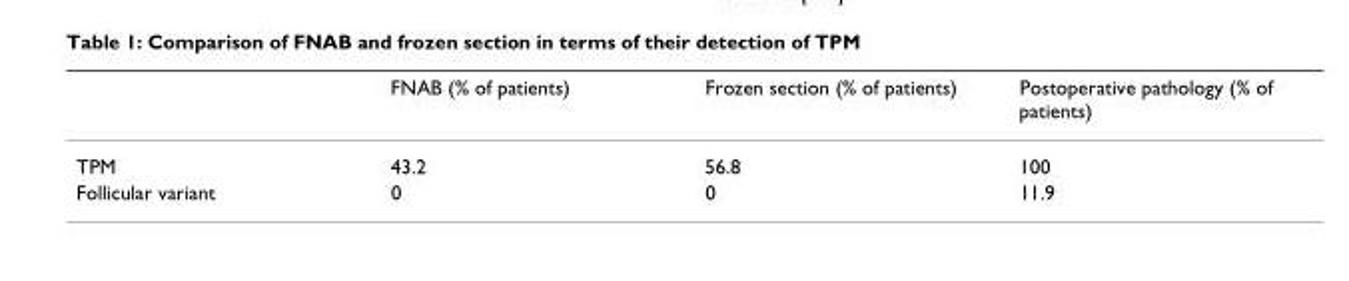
<table><thead><tr><td></td><td>FNAB (% of patients)</td><td>Frozen section (% of patients)</td><td>Postoperative pathology (% of patients)</td></tr></thead><tbody><tr><td>TPM</td><td>43.2</td><td>56.8</td><td>100</td></tr><tr><td>Follicular variant</td><td>0</td><td>0</td><td>11.9</td></tr></tbody></table>